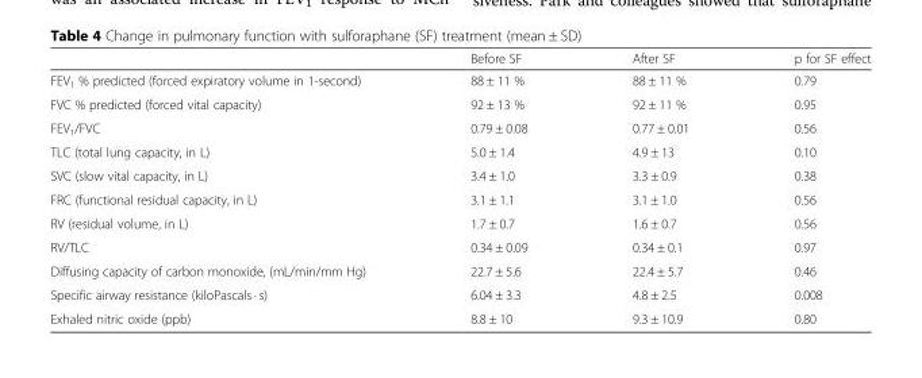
<table><thead><tr><td></td><td>Before SF</td><td>After SF</td><td>p for SF effect</td></tr></thead><tbody><tr><td>FEV<sub>1</sub> % predicted (forced expiratory volume in 1-second)</td><td>88 ± 11 %</td><td>88 ± 11 %</td><td>0.79</td></tr><tr><td>FVC % predicted (forced vital capacity)</td><td>92 ± 13 %</td><td>92 ± 11 %</td><td>0.95</td></tr><tr><td>FEV<sub>1</sub>/FVC</td><td>0.79 ± 0.08</td><td>0.77 ± 0.01</td><td>0.56</td></tr><tr><td>TLC (total lung capacity, in L)</td><td>5.0 ± 1.4</td><td>4.9 ± 13</td><td>0.10</td></tr><tr><td>SVC (slow vital capacity, in L)</td><td>3.4 ± 1.0</td><td>3.3 ± 0.9</td><td>0.38</td></tr><tr><td>FRC (functional residual capacity, in L)</td><td>3.1 ± 1.1</td><td>3.1 ± 1.0</td><td>0.56</td></tr><tr><td>RV (residual volume, in L)</td><td>1.7 ± 0.7</td><td>1.6 ± 0.7</td><td>0.56</td></tr><tr><td>RV/TLC</td><td>0.34 ± 0.09</td><td>0.34 ± 0.1</td><td>0.97</td></tr><tr><td>Diffusing capacity of carbon monoxide, (mL/min/mm Hg)</td><td>22.7 ± 5.6</td><td>22.4 ± 5.7</td><td>0.46</td></tr><tr><td>Specific airway resistance (kiloPascals · s)</td><td>6.04 ± 3.3</td><td>4.8 ± 2.5</td><td>0.008</td></tr><tr><td>Exhaled nitric oxide (ppb)</td><td>8.8 ± 10</td><td>9.3 ± 10.9</td><td>0.80</td></tr></tbody></table>